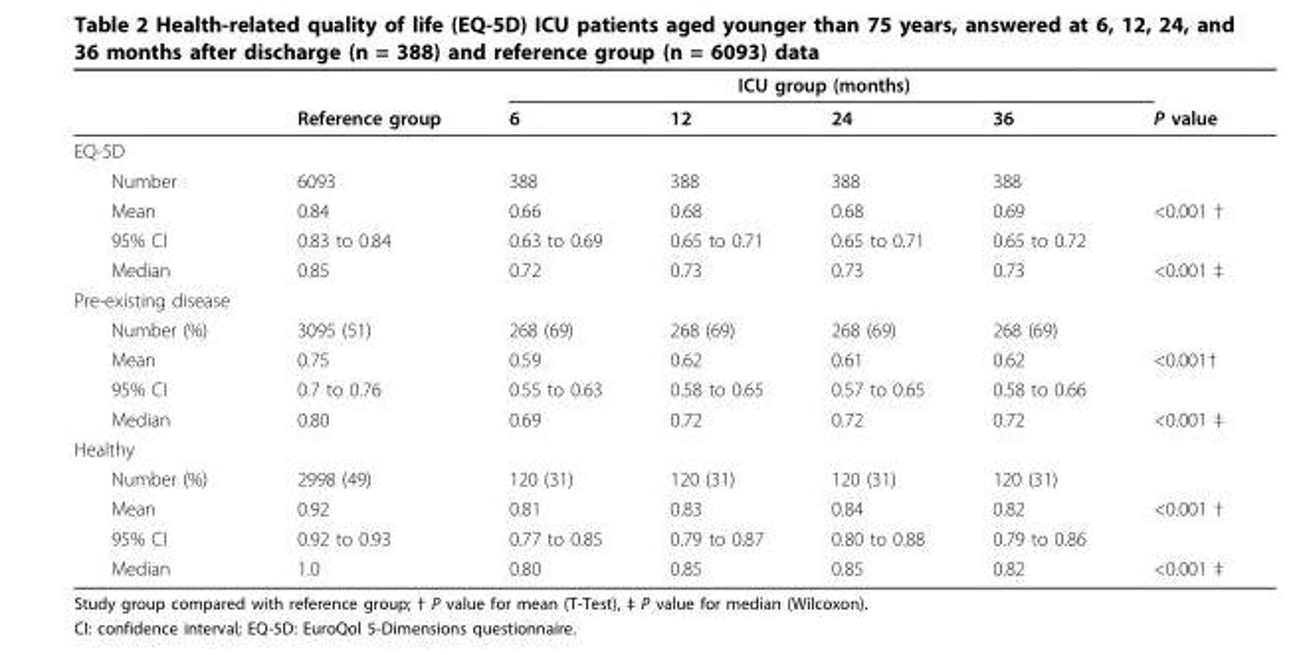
<table><thead><tr><td rowspan="2"></td><td rowspan="2">Reference group</td><td colspan="4">ICU group (months)</td><td rowspan="2">P value</td></tr><tr><td>6</td><td>12</td><td>24</td><td>36</td></tr></thead><tbody><tr><td colspan="7">EQ-5D</td></tr><tr><td>Number</td><td>6093</td><td>388</td><td>388</td><td>388</td><td>388</td><td></td></tr><tr><td>Mean</td><td>0.84</td><td>0.66</td><td>0.68</td><td>0.68</td><td>0.69</td><td>&lt;0.001 †</td></tr><tr><td>95% CI</td><td>0.83 to 0.84</td><td>0.63 to 0.69</td><td>0.65 to 0.71</td><td>0.65 to 0.71</td><td>0.65 to 0.72</td><td></td></tr><tr><td>Median</td><td>0.85</td><td>0.72</td><td>0.73</td><td>0.73</td><td>0.73</td><td>&lt;0.001 ‡</td></tr><tr><td colspan="7">Pre-existing disease</td></tr><tr><td>Number (%)</td><td>3095 (51)</td><td>268 (69)</td><td>268 (69)</td><td>268 (69)</td><td>268 (69)</td><td></td></tr><tr><td>Mean</td><td>0.75</td><td>0.59</td><td>0.62</td><td>0.61</td><td>0.62</td><td>&lt;0.001†</td></tr><tr><td>95% CI</td><td>0.7 to 0.76</td><td>0.55 to 0.63</td><td>0.58 to 0.65</td><td>0.57 to 0.65</td><td>0.58 to 0.66</td><td></td></tr><tr><td>Median</td><td>0.80</td><td>0.69</td><td>0.72</td><td>0.72</td><td>0.72</td><td>&lt;0.001 ‡</td></tr><tr><td colspan="7">Healthy</td></tr><tr><td>Number (%)</td><td>2998 (49)</td><td>120 (31)</td><td>120 (31)</td><td>120 (31)</td><td>120 (31)</td><td></td></tr><tr><td>Mean</td><td>0.92</td><td>0.81</td><td>0.83</td><td>0.84</td><td>0.82</td><td>&lt;0.001 †</td></tr><tr><td>95% CI</td><td>0.92 to 0.93</td><td>0.77 to 0.85</td><td>0.79 to 0.87</td><td>0.80 to 0.88</td><td>0.79 to 0.86</td><td></td></tr><tr><td>Median</td><td>1.0</td><td>0.80</td><td>0.85</td><td>0.85</td><td>0.82</td><td>&lt;0.001 ‡</td></tr></tbody></table>